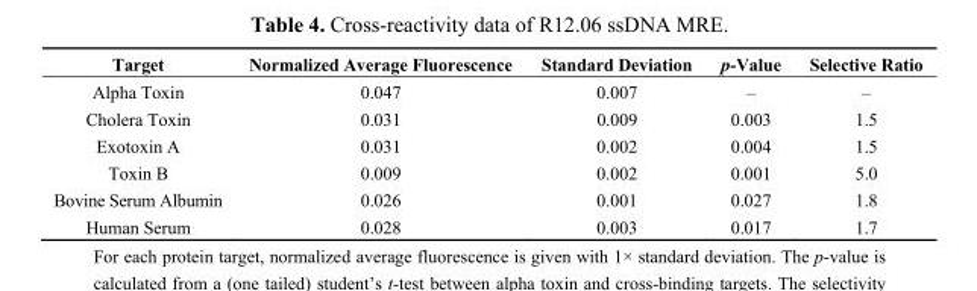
<table><thead><tr><td>Target</td><td>Normalized Average Fluorescence</td><td>Standard Deviation</td><td>p-Value</td><td>Selective Ratio</td></tr></thead><tbody><tr><td>Alpha Toxin</td><td>0.047</td><td>0.007</td><td>–</td><td>–</td></tr><tr><td>Cholera Toxin</td><td>0.031</td><td>0.009</td><td>0.003</td><td>1.5</td></tr><tr><td>Exotoxin A</td><td>0.031</td><td>0.002</td><td>0.004</td><td>1.5</td></tr><tr><td>Toxin B</td><td>0.009</td><td>0.002</td><td>0.001</td><td>5.0</td></tr><tr><td>Bovine Serum Albumin</td><td>0.026</td><td>0.001</td><td>0.027</td><td>1.8</td></tr><tr><td>Human Serum</td><td>0.028</td><td>0.003</td><td>0.017</td><td>1.7</td></tr></tbody></table>